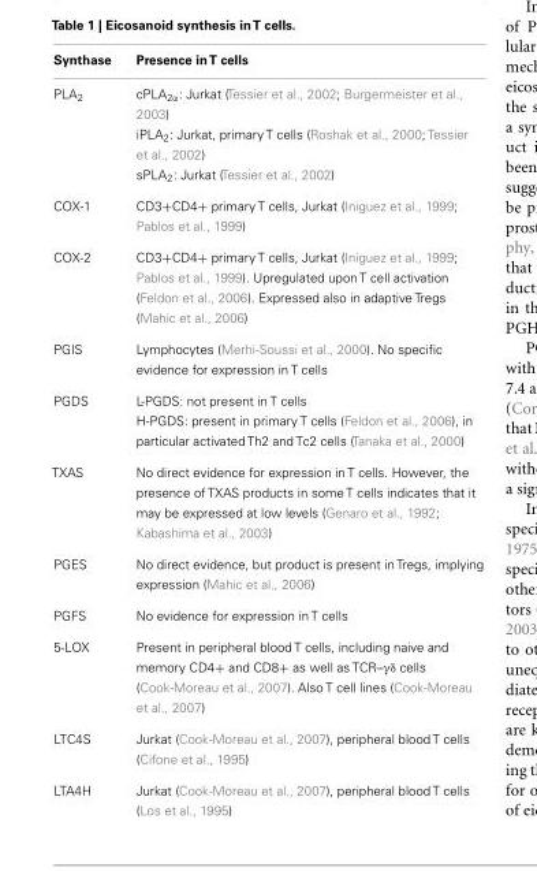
<table><thead><tr><td>Synthase</td><td>Presence inT cells</td></tr></thead><tbody><tr><td rowspan="3">PLA<sub>2</sub></td><td>cPLA<sub>2α</sub>: Jurkat (Tessier et al., 2002; Burgermeister et al., 2003)</td></tr><tr><td>iPLA<sub>2</sub>: Jurkat, primary T cells (Roshak et al., 2000; Tessier et al., 2002)</td></tr><tr><td>sPLA<sub>2</sub>: Jurkat (Tessier et al., 2002)</td></tr><tr><td>COX-1</td><td>CD3+CD4+ primary T cells, Jurkat (Iniguez et al., 1999; Pablos et al., 1999)</td></tr><tr><td>COX-2</td><td>CD3+CD4+ primary T cells, Jurkat (Iniguez et al., 1999; Pablos et al., 1999). Upregulated upon T cell activation (Feldon et al., 2006). Expressed also in adaptive Tregs (Mahic et al., 2006)</td></tr><tr><td>PGIS</td><td>Lymphocytes (Merhi-Soussi et al., 2000). No specific evidence for expression in T cells</td></tr><tr><td rowspan="2">PGDS</td><td>L-PGDS: not present in T cells</td></tr><tr><td>H-PGDS: present in primary T cells (Feldon et al., 2006), in particular activated Th2 and Tc2 cells (Tanaka et al., 2000)</td></tr><tr><td>TXAS</td><td>No direct evidence for expression in T cells. However, the presence of TXAS products in some T cells indicates that it may be expressed at low levels (Genaro et al., 1992; Kabashima et al., 2003)</td></tr><tr><td>PGES</td><td>No direct evidence, but product is present in Tregs, implying expression (Mahic et al., 2006)</td></tr><tr><td>PGFS</td><td>No evidence for expression in T cells</td></tr><tr><td>5-LOX</td><td>Present in peripheral blood T cells, including naive and memory CD4+ and CD8+ as well as TCR–γδ cells (Cook-Moreau et al., 2007). Also T cell lines (Cook-Moreau et al., 2007)</td></tr><tr><td>LTC4S</td><td>Jurkat (Cook-Moreau et al., 2007), peripheral blood T cells (Cifone et al., 1995)</td></tr><tr><td>LTA4H</td><td>Jurkat (Cook-Moreau et al., 2007), peripheral blood T cells (Los et al., 1995)</td></tr></tbody></table>